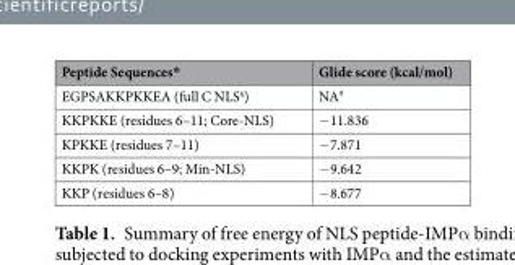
<table><thead><tr><td>Peptide Sequences*</td><td>Glide score (kcal/mol)</td></tr></thead><tbody><tr><td>EGPSAKKPKKEA (full C NLS<sup>x</sup>)</td><td>NA<sup>#</sup></td></tr><tr><td>KKPKKE (residues 6–11; Core-NLS)</td><td>−11.836</td></tr><tr><td>KPKKE (residues 7–11)</td><td>−7.871</td></tr><tr><td>KKPK (residues 6–9; Min-NLS)</td><td>−9.642</td></tr><tr><td>KKP (residues 6–8)</td><td>−8.677</td></tr></tbody></table>